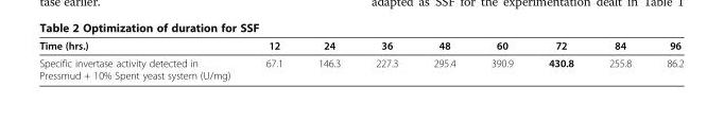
<table><thead><tr><td>Time (hrs.)</td><td>12</td><td>24</td><td>36</td><td>48</td><td>60</td><td>72</td><td>84</td><td>96</td></tr></thead><tbody><tr><td>Specific invertase activity detected in Pressmud + 10% Spent yeast system (U/mg)</td><td>67.1</td><td>146.3</td><td>227.3</td><td>295.4</td><td>390.9</td><td>430.8</td><td>255.8</td><td>86.2</td></tr></tbody></table>